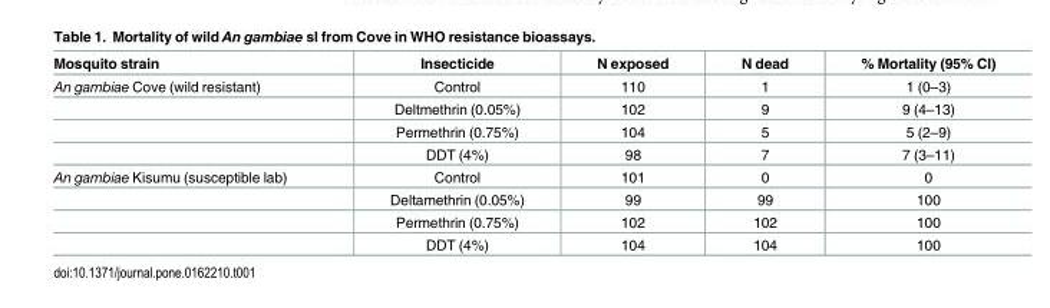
<table><thead><tr><td>Mosquito strain</td><td>Insecticide</td><td>N exposed</td><td>N dead</td><td>% Mortality (95% CI)</td></tr></thead><tbody><tr><td rowspan="4">An gambiae Cove (wild resistant)</td><td>Control</td><td>110</td><td>1</td><td>1 (0–3)</td></tr><tr><td>Deltmethrin (0.05%)</td><td>102</td><td>9</td><td>9 (4–13)</td></tr><tr><td>Permethrin (0.75%)</td><td>104</td><td>5</td><td>5 (2–9)</td></tr><tr><td>DDT (4%)</td><td>98</td><td>7</td><td>7 (3–11)</td></tr><tr><td rowspan="4">An gambiae Kisumu (susceptible lab)</td><td>Control</td><td>101</td><td>0</td><td>0</td></tr><tr><td>Deltamethrin (0.05%)</td><td>99</td><td>99</td><td>100</td></tr><tr><td>Permethrin (0.75%)</td><td>102</td><td>102</td><td>100</td></tr><tr><td>DDT (4%)</td><td>104</td><td>104</td><td>100</td></tr></tbody></table>